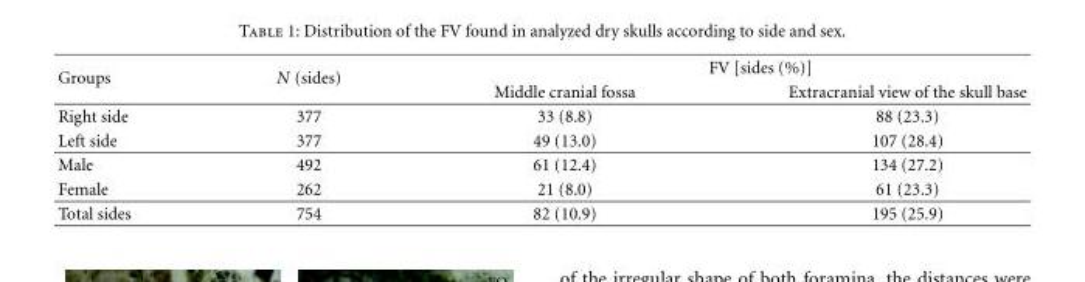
<table><thead><tr><td rowspan="2">Groups</td><td rowspan="2">N (sides)</td><td colspan="2">FV [sides (%)]</td></tr><tr><td>Middle cranial fossa</td><td>Extracranial view of the skull base</td></tr></thead><tbody><tr><td>Right side</td><td>377</td><td>33 (8.8)</td><td>88 (23.3)</td></tr><tr><td>Left side</td><td>377</td><td>49 (13.0)</td><td>107 (28.4)</td></tr><tr><td>Male</td><td>492</td><td>61 (12.4)</td><td>134 (27.2)</td></tr><tr><td>Female</td><td>262</td><td>21 (8.0)</td><td>61 (23.3)</td></tr><tr><td>Total sides</td><td>754</td><td>82 (10.9)</td><td>195 (25.9)</td></tr></tbody></table>